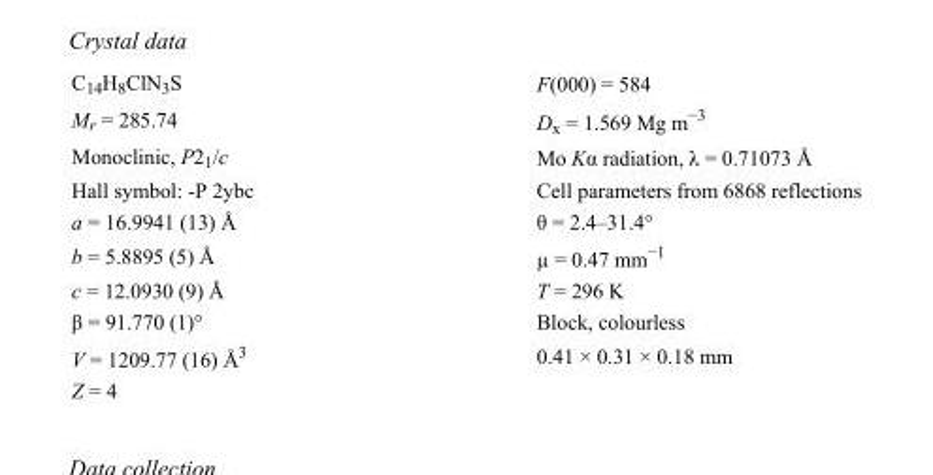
<table><tbody><tr><td>C<sub>14</sub>H<sub>8</sub>ClN<sub>3</sub>S</td><td>F(000) = 584</td></tr><tr><td>M<sub>r</sub> = 285.74</td><td>D<sub>x</sub> = 1.569 Mg m<sup>−3</sup></td></tr><tr><td>Monoclinic, P2<sub>1</sub>/c</td><td>Mo Kα radiation, λ = 0.71073 Å</td></tr><tr><td>Hall symbol: -P 2ybc</td><td>Cell parameters from 6868 reflections</td></tr><tr><td>a = 16.9941 (13) Å</td><td>θ = 2.4–31.4°</td></tr><tr><td>b = 5.8895 (5) Å</td><td>µ = 0.47 mm<sup>−1</sup></td></tr><tr><td>c = 12.0930 (9) Å</td><td>T = 296 K</td></tr><tr><td>β = 91.770 (1)°</td><td>Block, colourless</td></tr><tr><td>V = 1209.77 (16) Å<sup>3</sup></td><td>0.41 × 0.31 × 0.18 mm</td></tr><tr><td>Z = 4</td><td></td></tr></tbody></table>